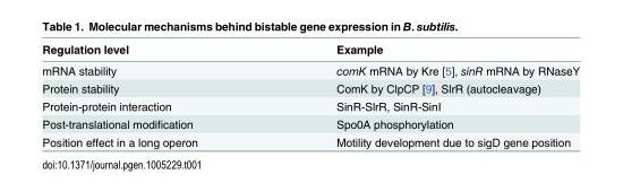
<table><thead><tr><td>Regulation level</td><td>Example</td></tr></thead><tbody><tr><td>mRNA stability</td><td>comK mRNA by Kre [5], sinR mRNA by RNaseY</td></tr><tr><td>Protein stability</td><td>ComK by ClpCP [9], SlrR (autocleavage)</td></tr><tr><td>Protein-protein interaction</td><td>SinR-SlrR, SinR-SinI</td></tr><tr><td>Post-translational modification</td><td>Spo0A phosphorylation</td></tr><tr><td>Position effect in a long operon</td><td>Motility development due to sigD gene position</td></tr></tbody></table>